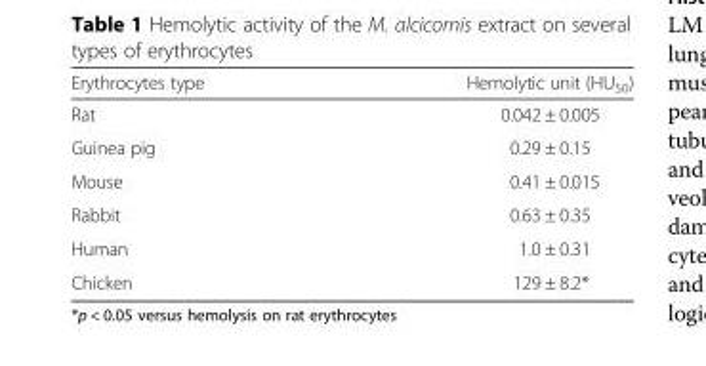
<table><thead><tr><td>Erythrocytes type</td><td>Hemolytic unit (HU<sub>50</sub>)</td></tr></thead><tbody><tr><td>Rat</td><td>0.042 ± 0.005</td></tr><tr><td>Guinea pig</td><td>0.29 ± 0.15</td></tr><tr><td>Mouse</td><td>0.41 ± 0.015</td></tr><tr><td>Rabbit</td><td>0.63 ± 0.35</td></tr><tr><td>Human</td><td>1.0 ± 0.31</td></tr><tr><td>Chicken</td><td>129 ± 8.2*</td></tr></tbody></table>